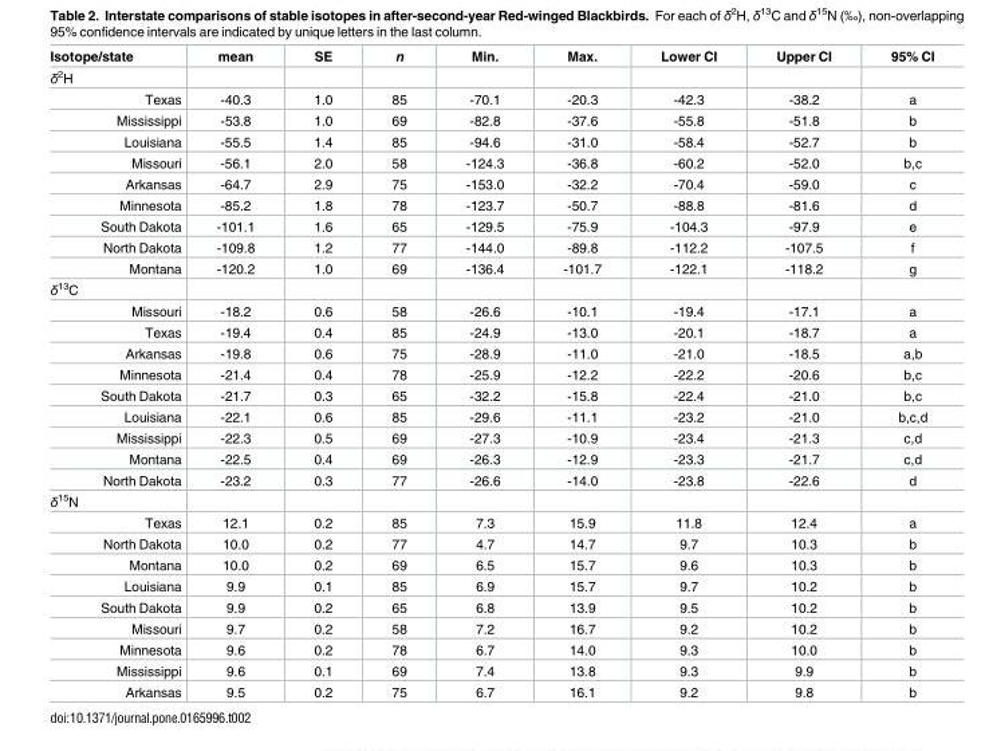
<table><thead><tr><td>Isotope/state</td><td>mean</td><td>SE</td><td>n</td><td>Min.</td><td>Max.</td><td>Lower CI</td><td>Upper CI</td><td>95% CI</td></tr></thead><tbody><tr><td colspan="9">δ<sup>2</sup>H</td></tr><tr><td>Texas</td><td>-40.3</td><td>1.0</td><td>85</td><td>-70.1</td><td>-20.3</td><td>-42.3</td><td>-38.2</td><td>a</td></tr><tr><td>Mississippi</td><td>-53.8</td><td>1.0</td><td>69</td><td>-82.8</td><td>-37.6</td><td>-55.8</td><td>-51.8</td><td>b</td></tr><tr><td>Louisiana</td><td>-55.5</td><td>1.4</td><td>85</td><td>-94.6</td><td>-31.0</td><td>-58.4</td><td>-52.7</td><td>b</td></tr><tr><td>Missouri</td><td>-56.1</td><td>2.0</td><td>58</td><td>-124.3</td><td>-36.8</td><td>-60.2</td><td>-52.0</td><td>b,c</td></tr><tr><td>Arkansas</td><td>-64.7</td><td>2.9</td><td>75</td><td>-153.0</td><td>-32.2</td><td>-70.4</td><td>-59.0</td><td>c</td></tr><tr><td>Minnesota</td><td>-85.2</td><td>1.8</td><td>78</td><td>-123.7</td><td>-50.7</td><td>-88.8</td><td>-81.6</td><td>d</td></tr><tr><td>South Dakota</td><td>-101.1</td><td>1.6</td><td>65</td><td>-129.5</td><td>-75.9</td><td>-104.3</td><td>-97.9</td><td>e</td></tr><tr><td>North Dakota</td><td>-109.8</td><td>1.2</td><td>77</td><td>-144.0</td><td>-89.8</td><td>-112.2</td><td>-107.5</td><td>f</td></tr><tr><td>Montana</td><td>-120.2</td><td>1.0</td><td>69</td><td>-136.4</td><td>-101.7</td><td>-122.1</td><td>-118.2</td><td>g</td></tr><tr><td colspan="9">δ<sup>13</sup>C</td></tr><tr><td>Missouri</td><td>-18.2</td><td>0.6</td><td>58</td><td>-26.6</td><td>-10.1</td><td>-19.4</td><td>-17.1</td><td>a</td></tr><tr><td>Texas</td><td>-19.4</td><td>0.4</td><td>85</td><td>-24.9</td><td>-13.0</td><td>-20.1</td><td>-18.7</td><td>a</td></tr><tr><td>Arkansas</td><td>-19.8</td><td>0.6</td><td>75</td><td>-28.9</td><td>-11.0</td><td>-21.0</td><td>-18.5</td><td>a,b</td></tr><tr><td>Minnesota</td><td>-21.4</td><td>0.4</td><td>78</td><td>-25.9</td><td>-12.2</td><td>-22.2</td><td>-20.6</td><td>b,c</td></tr><tr><td>South Dakota</td><td>-21.7</td><td>0.3</td><td>65</td><td>-32.2</td><td>-15.8</td><td>-22.4</td><td>-21.0</td><td>b,c</td></tr><tr><td>Louisiana</td><td>-22.1</td><td>0.6</td><td>85</td><td>-29.6</td><td>-11.1</td><td>-23.2</td><td>-21.0</td><td>b,c,d</td></tr><tr><td>Mississippi</td><td>-22.3</td><td>0.5</td><td>69</td><td>-27.3</td><td>-10.9</td><td>-23.4</td><td>-21.3</td><td>c,d</td></tr><tr><td>Montana</td><td>-22.5</td><td>0.4</td><td>69</td><td>-26.3</td><td>-12.9</td><td>-23.3</td><td>-21.7</td><td>c,d</td></tr><tr><td>North Dakota</td><td>-23.2</td><td>0.3</td><td>77</td><td>-26.6</td><td>-14.0</td><td>-23.8</td><td>-22.6</td><td>d</td></tr><tr><td colspan="9">δ<sup>15</sup>N</td></tr><tr><td>Texas</td><td>12.1</td><td>0.2</td><td>85</td><td>7.3</td><td>15.9</td><td>11.8</td><td>12.4</td><td>a</td></tr><tr><td>North Dakota</td><td>10.0</td><td>0.2</td><td>77</td><td>4.7</td><td>14.7</td><td>9.7</td><td>10.3</td><td>b</td></tr><tr><td>Montana</td><td>10.0</td><td>0.2</td><td>69</td><td>6.5</td><td>15.7</td><td>9.6</td><td>10.3</td><td>b</td></tr><tr><td>Louisiana</td><td>9.9</td><td>0.1</td><td>85</td><td>6.9</td><td>15.7</td><td>9.7</td><td>10.2</td><td>b</td></tr><tr><td>South Dakota</td><td>9.9</td><td>0.2</td><td>65</td><td>6.8</td><td>13.9</td><td>9.5</td><td>10.2</td><td>b</td></tr><tr><td>Missouri</td><td>9.7</td><td>0.2</td><td>58</td><td>7.2</td><td>16.7</td><td>9.2</td><td>10.2</td><td>b</td></tr><tr><td>Minnesota</td><td>9.6</td><td>0.2</td><td>78</td><td>6.7</td><td>14.0</td><td>9.3</td><td>10.0</td><td>b</td></tr><tr><td>Mississippi</td><td>9.6</td><td>0.1</td><td>69</td><td>7.4</td><td>13.8</td><td>9.3</td><td>9.9</td><td>b</td></tr><tr><td>Arkansas</td><td>9.5</td><td>0.2</td><td>75</td><td>6.7</td><td>16.1</td><td>9.2</td><td>9.8</td><td>b</td></tr></tbody></table>